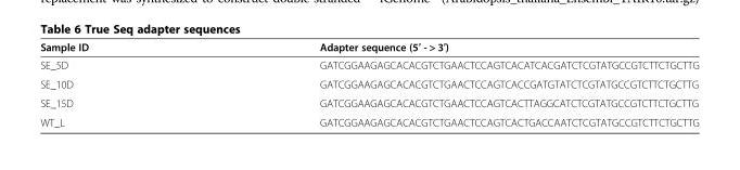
<table><thead><tr><td>Sample ID</td><td>Adapter sequence (5′ - &gt; 3′)</td></tr></thead><tbody><tr><td>SE_5D</td><td>GATCGGAAGAGCACACGTCTGAACTCCAGTCACATCACGATCTCGTATGCCGTCTTCTGCTTG</td></tr><tr><td>SE_10D</td><td>GATCGGAAGAGCACACGTCTGAACTCCAGTCACCGATGTATCTCGTATGCCGTCTTCTGCTTG</td></tr><tr><td>SE_15D</td><td>GATCGGAAGAGCACACGTCTGAACTCCAGTCACTTAGGCATCTCGTATGCCGTCTTCTGCTTG</td></tr><tr><td>WT_L</td><td>GATCGGAAGAGCACACGTCTGAACTCCAGTCACTGACCAATCTCGTATGCCGTCTTCTGCTTG</td></tr></tbody></table>